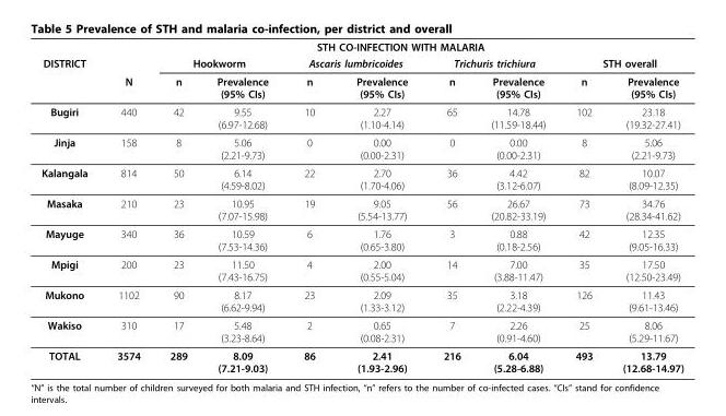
<table><thead><tr><td rowspan="3">DISTRICT</td><td colspan="9">STH CO-INFECTION WITH MALARIA</td></tr><tr><td rowspan="2">N</td><td colspan="2">Hookworm</td><td colspan="2">Ascaris lumbricoides</td><td colspan="2">Trichuris trichiura</td><td colspan="2">STH overall</td></tr><tr><td>n</td><td>Prevalence (95% CIs)</td><td>n</td><td>Prevalence (95% CIs)</td><td>n</td><td>Prevalence (95% CIs)</td><td>n</td><td>Prevalence (95% CIs)</td></tr></thead><tbody><tr><td>Bugiri</td><td>440</td><td>42</td><td>9.55 (6.97-12.68)</td><td>10</td><td>2.27 (1.10-4.14)</td><td>65</td><td>14.78 (11.59-18.44)</td><td>102</td><td>23.18 (19.32-27.41)</td></tr><tr><td>Jinja</td><td>158</td><td>8</td><td>5.06 (2.21-9.73)</td><td>0</td><td>0.00 (0.00-2.31)</td><td>0</td><td>0.00 (0.00-2.31)</td><td>8</td><td>5.06 (2.21-9.73)</td></tr><tr><td>Kalangala</td><td>814</td><td>50</td><td>6.14 (4.59-8.02)</td><td>22</td><td>2.70 (1.70-4.06)</td><td>36</td><td>4.42 (3.12-6.07)</td><td>82</td><td>10.07 (8.09-12.35)</td></tr><tr><td>Masaka</td><td>210</td><td>23</td><td>10.95 (7.07-15.98)</td><td>19</td><td>9.05 (5.54-13.77)</td><td>56</td><td>26.67 (20.82-33.19)</td><td>73</td><td>34.76 (28.34-41.62)</td></tr><tr><td>Mayuge</td><td>340</td><td>36</td><td>10.59 (7.53-14.36)</td><td>6</td><td>1.76 (0.65-3.80)</td><td>3</td><td>0.88 (0.18-2.56)</td><td>42</td><td>12.35 (9.05-16.33)</td></tr><tr><td>Mpigi</td><td>200</td><td>23</td><td>11.50 (7.43-16.75)</td><td>4</td><td>2.00 (0.55-5.04)</td><td>14</td><td>7.00 (3.88-11.47)</td><td>35</td><td>17.50 (12.50-23.49)</td></tr><tr><td>Mukono</td><td>1102</td><td>90</td><td>8.17 (6.62-9.94)</td><td>23</td><td>2.09 (1.33-3.12)</td><td>35</td><td>3.18 (2.22-4.39)</td><td>126</td><td>11.43 (9.61-13.46)</td></tr><tr><td>Wakiso</td><td>310</td><td>17</td><td>5.48 (3.23-8.64)</td><td>2</td><td>0.65 (0.08-2.31)</td><td>7</td><td>2.26 (0.91-4.60)</td><td>25</td><td>8.06 (5.29-11.67)</td></tr><tr><td>TOTAL</td><td>3574</td><td>289</td><td>8.09 (7.21-9.03)</td><td>86</td><td>2.41 (1.93-2.96)</td><td>216</td><td>6.04 (5.28-6.88)</td><td>493</td><td>13.79 (12.68-14.97)</td></tr></tbody></table>